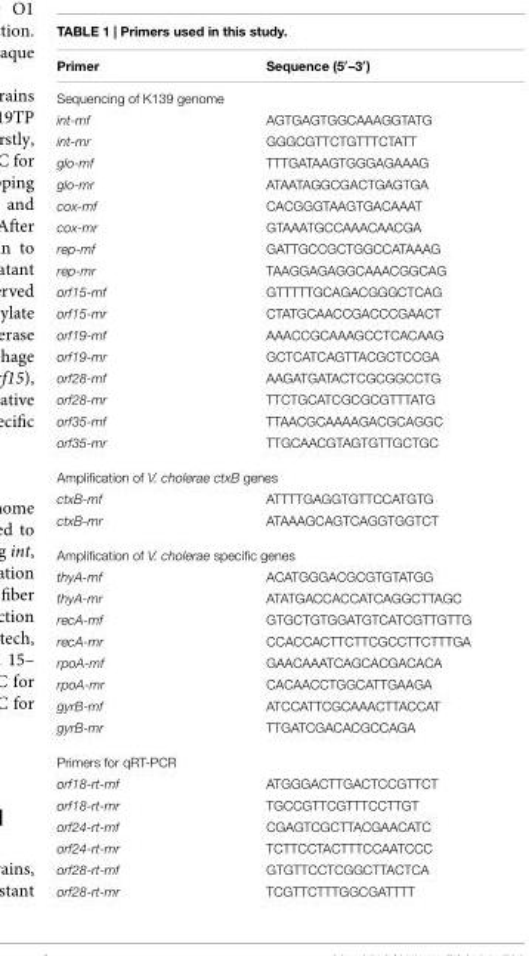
<table><thead><tr><td>Primer</td><td>Sequence (5′–3′)</td></tr></thead><tbody><tr><td colspan="2">Sequencing of K139 genome</td></tr><tr><td>int-mf</td><td>AGTGAGTGGCAAAGGTATG</td></tr><tr><td>int-mr</td><td>GGGCGTTCTGTTTCTATT</td></tr><tr><td>glo-mf</td><td>TTTGATAAGTGGGAGAAAG</td></tr><tr><td>glo-mr</td><td>ATAATAGGCGACTGAGTGA</td></tr><tr><td>cox-mf</td><td>CACGGGTAAGTGACAAAT</td></tr><tr><td>cox-mr</td><td>GTAAATGCCAAACAACGA</td></tr><tr><td>rep-mf</td><td>GATTGCCGCTGGCCATAAAG</td></tr><tr><td>rep-mr</td><td>TAAGGAGAGGCAAACGGCAG</td></tr><tr><td>orf15-mf</td><td>GTTTTTGCAGACGGGCTCAG</td></tr><tr><td>orf15-mr</td><td>CTATGCAACCGACCCGAACT</td></tr><tr><td>orf19-mf</td><td>AAACCGCAAAGCCTCACAAG</td></tr><tr><td>orf19-mr</td><td>GCTCATCAGTTACGCTCCGA</td></tr><tr><td>orf28-mf</td><td>AAGATGATACTCGCGGCCTG</td></tr><tr><td>orf28-mr</td><td>TTCTGCATCGCGCGTTTATG</td></tr><tr><td>orf35-mf</td><td>TTAACGCAAAAGACGCAGGC</td></tr><tr><td>orf35-mr</td><td>TTGCAACGTAGTGTTGCTGC</td></tr><tr><td colspan="2">Amplification of V. cholerae ctxB genes</td></tr><tr><td>ctxB-mf</td><td>ATTTTGAGGTGTTCCATGTG</td></tr><tr><td>ctxB-mr</td><td>ATAAAGCAGTCAGGTGGTCT</td></tr><tr><td colspan="2">Amplification of V. cholerae specific genes</td></tr><tr><td>thyA-mf</td><td>ACATGGGACGCGTGTATGG</td></tr><tr><td>thyA-mr</td><td>ATATGACCACCATCAGGCTTAGC</td></tr><tr><td>recA-mf</td><td>GTGCTGTGGATGTCATCGTTGTTG</td></tr><tr><td>recA-mr</td><td>CCACCACTTCTTCGCCTTCTTTGA</td></tr><tr><td>rpoA-mf</td><td>GAACAAATCAGCACGACACA</td></tr><tr><td>rpoA-mr</td><td>CACAACCTGGCATTGAAGA</td></tr><tr><td>gyrB-mf</td><td>ATCCATTCGCAAACTTACCAT</td></tr><tr><td>gyrB-mr</td><td>TTGATCGACACGCCAGA</td></tr><tr><td colspan="2">Primers for qRT-PCR</td></tr><tr><td>orf18-rt-mf</td><td>ATGGGACTTGACTCCGTTCT</td></tr><tr><td>orf18-rt-mr</td><td>TGCCGTTCGTTTCCTTGT</td></tr><tr><td>orf24-rt-mf</td><td>CGAGTCGCTTACGAACATC</td></tr><tr><td>orf24-rt-mr</td><td>TCTTCCTACTTTCCAATCCC</td></tr><tr><td>orf28-rt-mf</td><td>GTGTTCCTCGGCTTACTCA</td></tr><tr><td>orf28-rt-mr</td><td>TCGTTCTTTGGCGATTTT</td></tr></tbody></table>